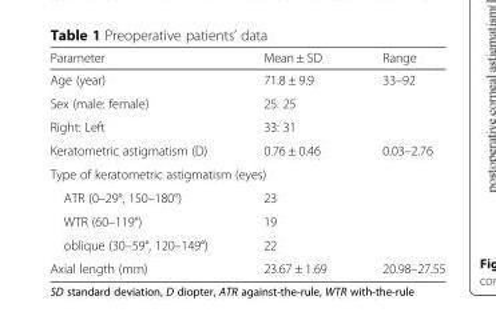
<table><thead><tr><td>Parameter</td><td>Mean ± SD</td><td>Range</td></tr></thead><tbody><tr><td>Age (year)</td><td>71.8 ± 9.9</td><td>33–92</td></tr><tr><td>Sex (male: female)</td><td>25: 25</td><td></td></tr><tr><td>Right: Left</td><td>33: 31</td><td></td></tr><tr><td>Keratometric astigmatism (D)</td><td>0.76 ± 0.46</td><td>0.03–2.76</td></tr><tr><td colspan="3">Type of keratometric astigmatism (eyes)</td></tr><tr><td>ATR (0–29°, 150–180°)</td><td>23</td><td></td></tr><tr><td>WTR (60–119°)</td><td>19</td><td></td></tr><tr><td>oblique (30–59°, 120–149°)</td><td>22</td><td></td></tr><tr><td>Axial length (mm)</td><td>23.67 ± 1.69</td><td>20.98–27.55</td></tr></tbody></table>